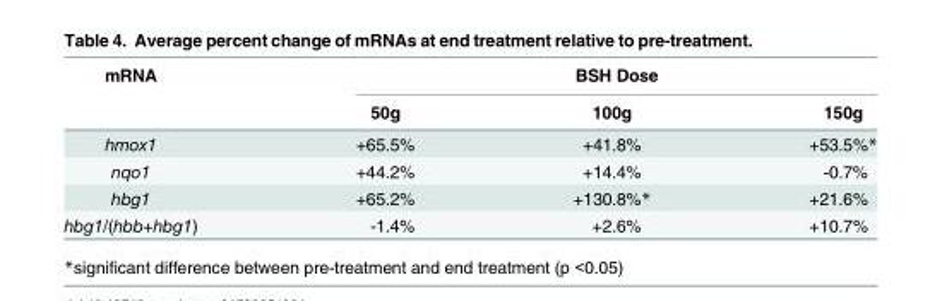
<table><thead><tr><td rowspan="2">mRNA</td><td colspan="3">BSH Dose</td></tr><tr><td>50g</td><td>100g</td><td>150g</td></tr></thead><tbody><tr><td>hmox1</td><td>+65.5%</td><td>+41.8%</td><td>+53.5%*</td></tr><tr><td>nqo1</td><td>+44.2%</td><td>+14.4%</td><td>-0.7%</td></tr><tr><td>hbg1</td><td>+65.2%</td><td>+130.8%*</td><td>+21.6%</td></tr><tr><td>hbg1/(hbb+hbg1)</td><td>-1.4%</td><td>+2.6%</td><td>+10.7%</td></tr></tbody></table>